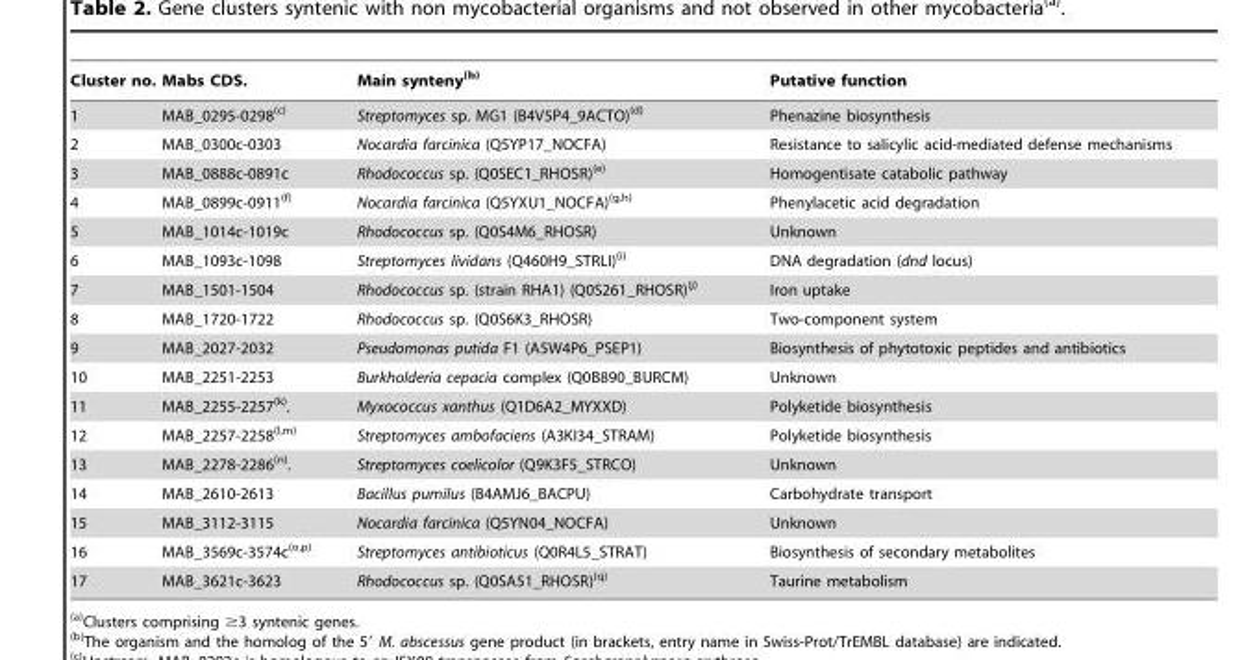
<table><thead><tr><td>Cluster no.</td><td>Mabs CDS.</td><td>Main synteny(b)</td><td>Putative function</td></tr></thead><tbody><tr><td>1</td><td>MAB_0295-0298(c)</td><td>Streptomyces sp. MG1 (B4V5P4_9ACTO)(d)</td><td>Phenazine biosynthesis</td></tr><tr><td>2</td><td>MAB_0300c-0303</td><td>Nocardia farcinica (Q5YP17_NOCFA)</td><td>Resistance to salicylic acid-mediated defense mechanisms</td></tr><tr><td>3</td><td>MAB_0888c-0891c</td><td>Rhodococcus sp. (Q0SEC1_RHOSR)(e)</td><td>Homogentisate catabolic pathway</td></tr><tr><td>4</td><td>MAB_0899c-0911(f)</td><td>Nocardia farcinica (Q5YXU1_NOCFA)(g,h)</td><td>Phenylacetic acid degradation</td></tr><tr><td>5</td><td>MAB_1014c-1019c</td><td>Rhodococcus sp. (Q0S4M6_RHOSR)</td><td>Unknown</td></tr><tr><td>6</td><td>MAB_1093c-1098</td><td>Streptomyces lividans (Q460H9_STRLI)(i)</td><td>DNA degradation (dnd locus)</td></tr><tr><td>7</td><td>MAB_1501-1504</td><td>Rhodococcus sp. (strain RHA1) (Q0S261_RHOSR)(j)</td><td>Iron uptake</td></tr><tr><td>8</td><td>MAB_1720-1722</td><td>Rhodococcus sp. (Q0S6K3_RHOSR)</td><td>Two-component system</td></tr><tr><td>9</td><td>MAB_2027-2032</td><td>Pseudomonas putida F1 (A5W4P6_PSEP1)</td><td>Biosynthesis of phytotoxic peptides and antibiotics</td></tr><tr><td>10</td><td>MAB_2251-2253</td><td>Burkholderia cepacia complex (Q0B890_BURCM)</td><td>Unknown</td></tr><tr><td>11</td><td>MAB_2255-2257(k).</td><td>Myxococcus xanthus (Q1D6A2_MYXXD)</td><td>Polyketide biosynthesis</td></tr><tr><td>12</td><td>MAB_2257-2258(l,m)</td><td>Streptomyces ambofaciens (A3KI34_STRAM)</td><td>Polyketide biosynthesis</td></tr><tr><td>13</td><td>MAB_2278-2286(n).</td><td>Streptomyces coelicolor (Q9K3F5_STRCO)</td><td>Unknown</td></tr><tr><td>14</td><td>MAB_2610-2613</td><td>Bacillus pumilus (B4AMJ6_BACPU)</td><td>Carbohydrate transport</td></tr><tr><td>15</td><td>MAB_3112-3115</td><td>Nocardia farcinica (Q5YN04_NOCFA)</td><td>Unknown</td></tr><tr><td>16</td><td>MAB_3569c-3574c(o,p)</td><td>Streptomyces antibioticus (Q0R4L5_STRAT)</td><td>Biosynthesis of secondary metabolites</td></tr><tr><td>17</td><td>MAB_3621c-3623</td><td>Rhodococcus sp. (Q0SA51_RHOSR)(q)</td><td>Taurine metabolism</td></tr></tbody></table>